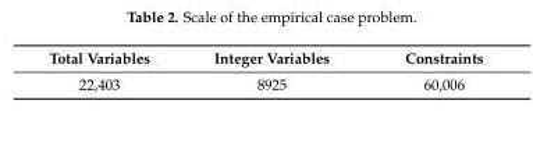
<table><thead><tr><td>Total Variables</td><td>Integer Variables</td><td>Constraints</td></tr></thead><tbody><tr><td>22,403</td><td>8925</td><td>60,006</td></tr></tbody></table>